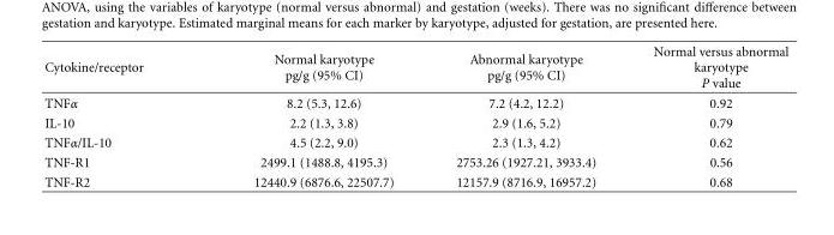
<table><thead><tr><td>Cytokine/receptor</td><td>Normal karyotype pg/g (95% CI)</td><td>Abnormal karyotype pg/g (95% CI)</td><td>Normal versus abnormal karyotype P value</td></tr></thead><tbody><tr><td>TNFα</td><td>8.2 (5.3, 12.6)</td><td>7.2 (4.2, 12.2)</td><td>0.92</td></tr><tr><td>IL-10</td><td>2.2 (1.3, 3.8)</td><td>2.9 (1.6, 5.2)</td><td>0.79</td></tr><tr><td>TNFα/IL-10</td><td>4.5 (2.2, 9.0)</td><td>2.3 (1.3, 4.2)</td><td>0.62</td></tr><tr><td>TNF-R1</td><td>2499.1 (1488.8, 4195.3)</td><td>2753.26 (1927.21, 3933.4)</td><td>0.56</td></tr><tr><td>TNF-R2</td><td>12440.9 (6876.6, 22507.7)</td><td>12157.9 (8716.9, 16957.2)</td><td>0.68</td></tr></tbody></table>